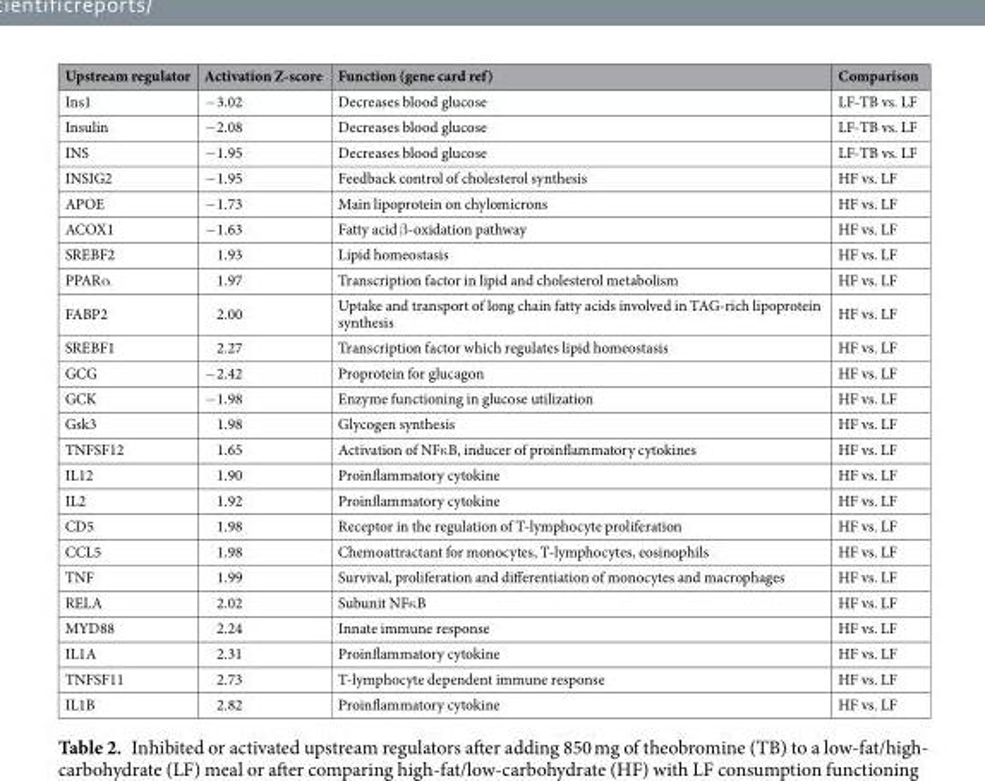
<table><thead><tr><td>Upstream regulator</td><td>Activation Z-score</td><td>Function (gene card ref)</td><td>Comparison</td></tr></thead><tbody><tr><td>Ins1</td><td>−3.02</td><td>Decreases blood glucose</td><td>LF-TB vs. LF</td></tr><tr><td>Insulin</td><td>−2.08</td><td>Decreases blood glucose</td><td>LF-TB vs. LF</td></tr><tr><td>INS</td><td>−1.95</td><td>Decreases blood glucose</td><td>LF-TB vs. LF</td></tr><tr><td>INSIG2</td><td>−1.95</td><td>Feedback control of cholesterol synthesis</td><td>HF vs. LF</td></tr><tr><td>APOE</td><td>−1.73</td><td>Main lipoprotein on chylomicrons</td><td>HF vs. LF</td></tr><tr><td>ACOX1</td><td>−1.63</td><td>Fatty acid β-oxidation pathway</td><td>HF vs. LF</td></tr><tr><td>SREBF2</td><td>1.93</td><td>Lipid homeostasis</td><td>HF vs. LF</td></tr><tr><td>PPARα</td><td>1.97</td><td>Transcription factor in lipid and cholesterol metabolism</td><td>HF vs. LF</td></tr><tr><td>FABP2</td><td>2.00</td><td>Uptake and transport of long chain fatty acids involved in TAG-rich lipoprotein synthesis</td><td>HF vs. LF</td></tr><tr><td>SREBF1</td><td>2.27</td><td>Transcription factor which regulates lipid homeostasis</td><td>HF vs. LF</td></tr><tr><td>GCG</td><td>−2.42</td><td>Proprotein for glucagon</td><td>HF vs. LF</td></tr><tr><td>GCK</td><td>−1.98</td><td>Enzyme functioning in glucose utilization</td><td>HF vs. LF</td></tr><tr><td>Gsk3</td><td>1.98</td><td>Glycogen synthesis</td><td>HF vs. LF</td></tr><tr><td>TNFSF12</td><td>1.65</td><td>Activation of NFκB, inducer of proinflammatory cytokines</td><td>HF vs. LF</td></tr><tr><td>IL12</td><td>1.90</td><td>Proinflammatory cytokine</td><td>HF vs. LF</td></tr><tr><td>IL2</td><td>1.92</td><td>Proinflammatory cytokine</td><td>HF vs. LF</td></tr><tr><td>CD5</td><td>1.98</td><td>Receptor in the regulation of T-lymphocyte proliferation</td><td>HF vs. LF</td></tr><tr><td>CCL5</td><td>1.98</td><td>Chemoattractant for monocytes, T-lymphocytes, eosinophils</td><td>HF vs. LF</td></tr><tr><td>TNF</td><td>1.99</td><td>Survival, proliferation and differentiation of monocytes and macrophages</td><td>HF vs. LF</td></tr><tr><td>RELA</td><td>2.02</td><td>Subunit NFκB</td><td>HF vs. LF</td></tr><tr><td>MYD88</td><td>2.24</td><td>Innate immune response</td><td>HF vs. LF</td></tr><tr><td>IL1A</td><td>2.31</td><td>Proinflammatory cytokine</td><td>HF vs. LF</td></tr><tr><td>TNFSF11</td><td>2.73</td><td>T-lymphocyte dependent immune response</td><td>HF vs. LF</td></tr><tr><td>IL1B</td><td>2.82</td><td>Proinflammatory cytokine</td><td>HF vs. LF</td></tr></tbody></table>